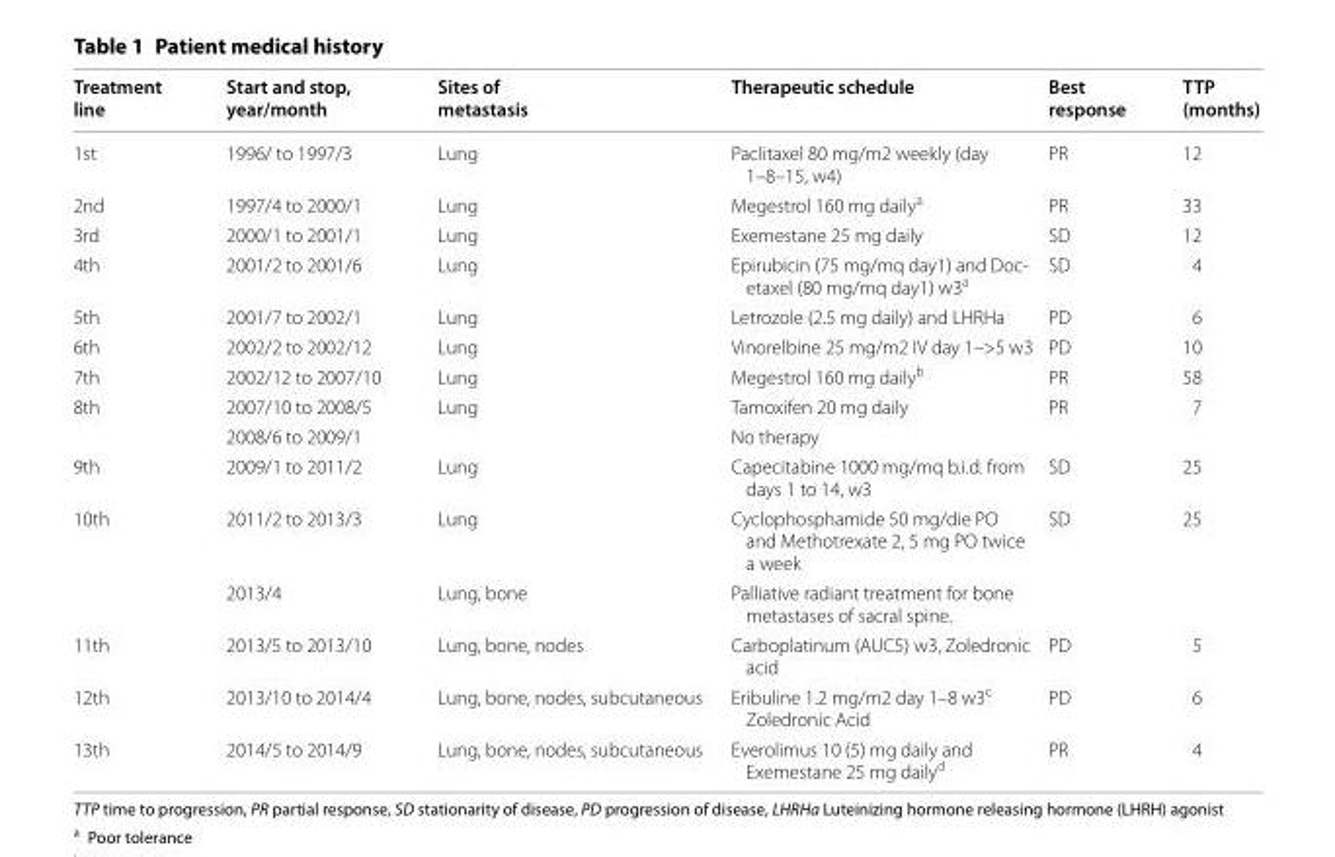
<table><thead><tr><td>Treatment line</td><td>Start and stop, year/month</td><td>Sites of metastasis</td><td>Therapeutic schedule</td><td>Best response</td><td>TTP (months)</td></tr></thead><tbody><tr><td>1st</td><td>1996/ to 1997/3</td><td>Lung</td><td>Paclitaxel 80 mg/m2 weekly (day 1–8–15, w4)</td><td>PR</td><td>12</td></tr><tr><td>2nd</td><td>1997/4 to 2000/1</td><td>Lung</td><td>Megestrol 160 mg daily<sup>a</sup></td><td>PR</td><td>33</td></tr><tr><td>3rd</td><td>2000/1 to 2001/1</td><td>Lung</td><td>Exemestane 25 mg daily</td><td>SD</td><td>12</td></tr><tr><td>4th</td><td>2001/2 to 2001/6</td><td>Lung</td><td>Epirubicin (75 mg/mq day1) and Doc- etaxel (80 mg/mq day1) w3a</td><td>SD</td><td>4</td></tr><tr><td>5th</td><td>2001/7 to 2002/1</td><td>Lung</td><td>Letrozole (2.5 mg daily) and LHRHa</td><td>PD</td><td>6</td></tr><tr><td>6th</td><td>2002/2 to 2002/12</td><td>Lung</td><td>Vinorelbine 25 mg/m2 IV day 1–&gt;5 w3</td><td>PD</td><td>10</td></tr><tr><td>7th</td><td>2002/12 to 2007/10</td><td>Lung</td><td>Megestrol 160 mg daily<sup>b</sup></td><td>PR</td><td>58</td></tr><tr><td rowspan="2">8th</td><td>2007/10 to 2008/5</td><td>Lung</td><td>Tamoxifen 20 mg daily</td><td>PR</td><td>7</td></tr><tr><td>2008/6 to 2009/1</td><td></td><td>No therapy</td><td></td><td></td></tr><tr><td>9th</td><td>2009/1 to 2011/2</td><td>Lung</td><td>Capecitabine 1000 mg/mq b.i.d. from days 1 to 14, w3</td><td>SD</td><td>25</td></tr><tr><td rowspan="2">10th</td><td>2011/2 to 2013/3</td><td>Lung</td><td>Cyclophosphamide 50 mg/die PO and Methotrexate 2, 5 mg PO twice a week</td><td>SD</td><td>25</td></tr><tr><td>2013/4</td><td>Lung, bone</td><td>Palliative radiant treatment for bone metastases of sacral spine.</td><td></td><td></td></tr><tr><td>11th</td><td>2013/5 to 2013/10</td><td>Lung, bone, nodes</td><td>Carboplatinum (AUC5) w3, Zoledronic acid</td><td>PD</td><td>5</td></tr><tr><td>12th</td><td>2013/10 to 2014/4</td><td>Lung, bone, nodes, subcutaneous</td><td>Eribuline 1.2 mg/m2 day 1–8 w3<sup>c</sup> Zoledronic Acid</td><td>PD</td><td>6</td></tr><tr><td>13th</td><td>2014/5 to 2014/9</td><td>Lung, bone, nodes, subcutaneous</td><td>Everolimus 10 (5) mg daily and Exemestane 25 mg daily<sup>d</sup></td><td>PR</td><td>4</td></tr></tbody></table>